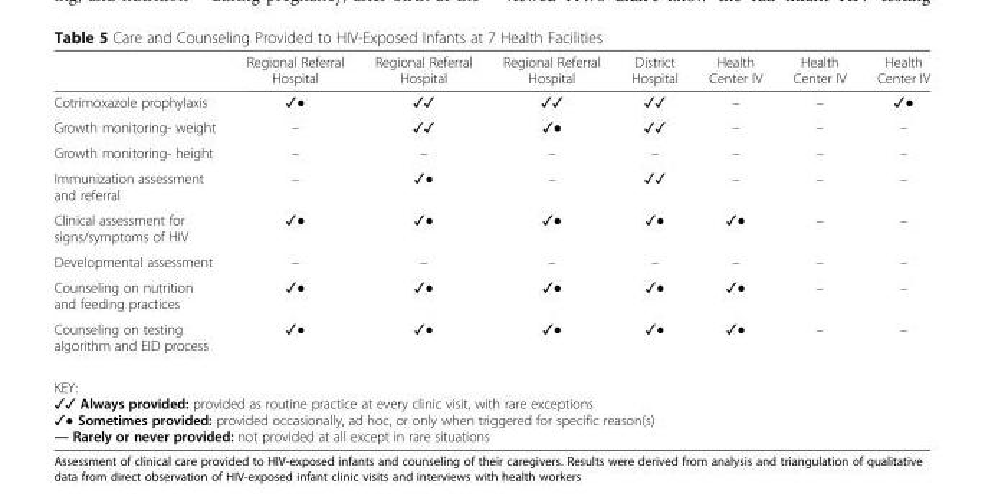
<table><thead><tr><td></td><td>Regional Referral Hospital</td><td>Regional Referral Hospital</td><td>Regional Referral Hospital</td><td>District Hospital</td><td>Health Center IV</td><td>Health Center IV</td><td>Health Center IV</td></tr></thead><tbody><tr><td>Cotrimoxazole prophylaxis</td><td>✓●</td><td>✓✓</td><td>✓✓</td><td>✓✓</td><td>–</td><td>–</td><td>✓●</td></tr><tr><td>Growth monitoring- weight</td><td>–</td><td>✓✓</td><td>✓●</td><td>✓✓</td><td>–</td><td>–</td><td>–</td></tr><tr><td>Growth monitoring- height</td><td>–</td><td>–</td><td>–</td><td>–</td><td>–</td><td>–</td><td>–</td></tr><tr><td>Immunization assessment and referral</td><td>–</td><td>✓●</td><td>–</td><td>✓✓</td><td>–</td><td>–</td><td>–</td></tr><tr><td>Clinical assessment for signs/symptoms of HIV</td><td>✓●</td><td>✓●</td><td>✓●</td><td>✓●</td><td>✓●</td><td>–</td><td>–</td></tr><tr><td>Developmental assessment</td><td>–</td><td>–</td><td>–</td><td>–</td><td>–</td><td>–</td><td>–</td></tr><tr><td>Counseling on nutrition and feeding practices</td><td>✓●</td><td>✓●</td><td>✓●</td><td>✓●</td><td>✓●</td><td>–</td><td>–</td></tr><tr><td>Counseling on testing algorithm and EID process</td><td>✓●</td><td>✓●</td><td>✓●</td><td>✓●</td><td>✓●</td><td>–</td><td>–</td></tr><tr><td colspan="8">KEY: ✓✓ Always provided: provided as routine practice at every clinic visit, with rare exceptions ✓● Sometimes provided: provided occasionally, ad hoc, or only when triggered for specific reason(s) — Rarely or never provided: not provided at all except in rare situations</td></tr></tbody></table>